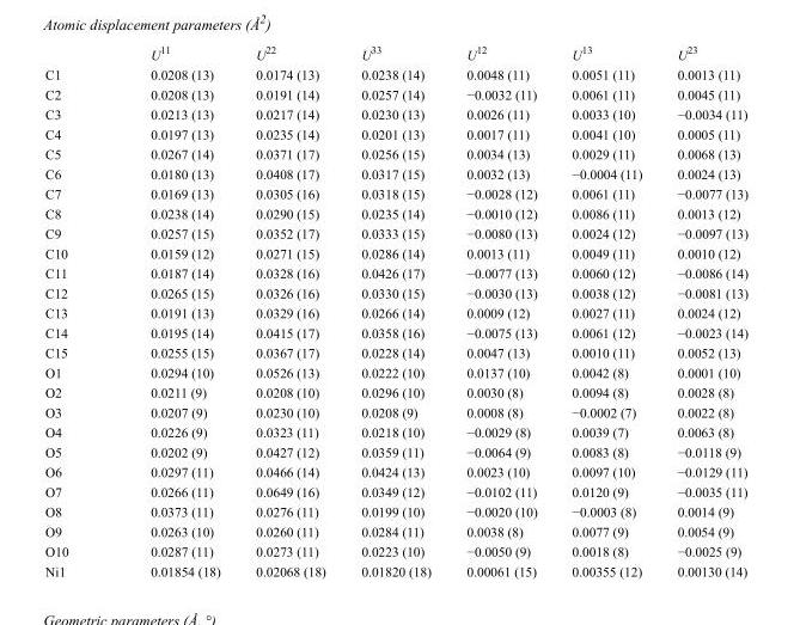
<table><thead><tr><td></td><td>U<sup>11</sup></td><td>U<sup>22</sup></td><td>U<sup>33</sup></td><td>U<sup>12</sup></td><td>U<sup>13</sup></td><td>U<sup>23</sup></td></tr></thead><tbody><tr><td>C1</td><td>0.0208 (13)</td><td>0.0174 (13)</td><td>0.0238 (14)</td><td>0.0048 (11)</td><td>0.0051 (11)</td><td>0.0013 (11)</td></tr><tr><td>C2</td><td>0.0208 (13)</td><td>0.0191 (14)</td><td>0.0257 (14)</td><td>−0.0032 (11)</td><td>0.0061 (11)</td><td>0.0045 (11)</td></tr><tr><td>C3</td><td>0.0213 (13)</td><td>0.0217 (14)</td><td>0.0230 (13)</td><td>0.0026 (11)</td><td>0.0033 (10)</td><td>−0.0034 (11)</td></tr><tr><td>C4</td><td>0.0197 (13)</td><td>0.0235 (14)</td><td>0.0201 (13)</td><td>0.0017 (11)</td><td>0.0041 (10)</td><td>0.0005 (11)</td></tr><tr><td>C5</td><td>0.0267 (14)</td><td>0.0371 (17)</td><td>0.0256 (15)</td><td>0.0034 (13)</td><td>0.0029 (11)</td><td>0.0068 (13)</td></tr><tr><td>C6</td><td>0.0180 (13)</td><td>0.0408 (17)</td><td>0.0317 (15)</td><td>0.0032 (13)</td><td>−0.0004 (11)</td><td>0.0024 (13)</td></tr><tr><td>C7</td><td>0.0169 (13)</td><td>0.0305 (16)</td><td>0.0318 (15)</td><td>−0.0028 (12)</td><td>0.0061 (11)</td><td>−0.0077 (13)</td></tr><tr><td>C8</td><td>0.0238 (14)</td><td>0.0290 (15)</td><td>0.0235 (14)</td><td>−0.0010 (12)</td><td>0.0086 (11)</td><td>0.0013 (12)</td></tr><tr><td>C9</td><td>0.0257 (15)</td><td>0.0352 (17)</td><td>0.0333 (15)</td><td>−0.0080 (13)</td><td>0.0024 (12)</td><td>−0.0097 (13)</td></tr><tr><td>C10</td><td>0.0159 (12)</td><td>0.0271 (15)</td><td>0.0286 (14)</td><td>0.0013 (11)</td><td>0.0049 (11)</td><td>0.0010 (12)</td></tr><tr><td>C11</td><td>0.0187 (14)</td><td>0.0328 (16)</td><td>0.0426 (17)</td><td>−0.0077 (13)</td><td>0.0060 (12)</td><td>−0.0086 (14)</td></tr><tr><td>C12</td><td>0.0265 (15)</td><td>0.0326 (16)</td><td>0.0330 (15)</td><td>−0.0030 (13)</td><td>0.0038 (12)</td><td>−0.0081 (13)</td></tr><tr><td>C13</td><td>0.0191 (13)</td><td>0.0329 (16)</td><td>0.0266 (14)</td><td>0.0009 (12)</td><td>0.0027 (11)</td><td>0.0024 (12)</td></tr><tr><td>C14</td><td>0.0195 (14)</td><td>0.0415 (17)</td><td>0.0358 (16)</td><td>−0.0075 (13)</td><td>0.0061 (12)</td><td>−0.0023 (14)</td></tr><tr><td>C15</td><td>0.0255 (15)</td><td>0.0367 (17)</td><td>0.0228 (14)</td><td>0.0047 (13)</td><td>0.0010 (11)</td><td>0.0052 (13)</td></tr><tr><td>O1</td><td>0.0294 (10)</td><td>0.0526 (13)</td><td>0.0222 (10)</td><td>0.0137 (10)</td><td>0.0042 (8)</td><td>0.0001 (10)</td></tr><tr><td>O2</td><td>0.0211 (9)</td><td>0.0208 (10)</td><td>0.0296 (10)</td><td>0.0030 (8)</td><td>0.0094 (8)</td><td>0.0028 (8)</td></tr><tr><td>O3</td><td>0.0207 (9)</td><td>0.0230 (10)</td><td>0.0208 (9)</td><td>0.0008 (8)</td><td>−0.0002 (7)</td><td>0.0022 (8)</td></tr><tr><td>O4</td><td>0.0226 (9)</td><td>0.0323 (11)</td><td>0.0218 (10)</td><td>−0.0029 (8)</td><td>0.0039 (7)</td><td>0.0063 (8)</td></tr><tr><td>O5</td><td>0.0202 (9)</td><td>0.0427 (12)</td><td>0.0359 (11)</td><td>−0.0064 (9)</td><td>0.0083 (8)</td><td>−0.0118 (9)</td></tr><tr><td>O6</td><td>0.0297 (11)</td><td>0.0466 (14)</td><td>0.0424 (13)</td><td>0.0023 (10)</td><td>0.0097 (10)</td><td>−0.0129 (11)</td></tr><tr><td>O7</td><td>0.0266 (11)</td><td>0.0649 (16)</td><td>0.0349 (12)</td><td>−0.0102 (11)</td><td>0.0120 (9)</td><td>−0.0035 (11)</td></tr><tr><td>O8</td><td>0.0373 (11)</td><td>0.0276 (11)</td><td>0.0199 (10)</td><td>−0.0020 (10)</td><td>−0.0003 (8)</td><td>0.0014 (9)</td></tr><tr><td>O9</td><td>0.0263 (10)</td><td>0.0260 (11)</td><td>0.0284 (11)</td><td>0.0038 (8)</td><td>0.0077 (9)</td><td>0.0054 (9)</td></tr><tr><td>O10</td><td>0.0287 (11)</td><td>0.0273 (11)</td><td>0.0223 (10)</td><td>−0.0050 (9)</td><td>0.0018 (8)</td><td>−0.0025 (9)</td></tr><tr><td>Ni1</td><td>0.01854 (18)</td><td>0.02068 (18)</td><td>0.01820 (18)</td><td>0.00061 (15)</td><td>0.00355 (12)</td><td>0.00130 (14)</td></tr></tbody></table>